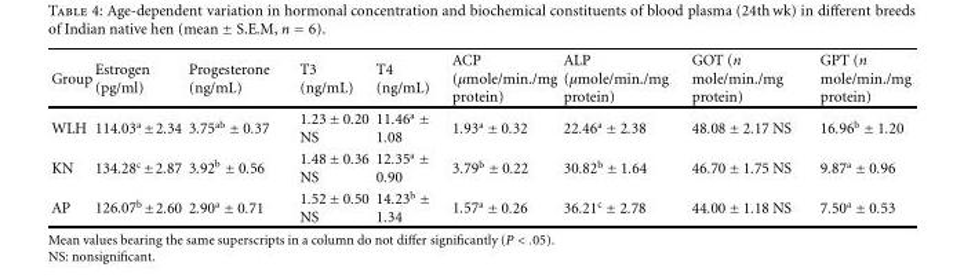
<table><thead><tr><td>Group</td><td>Estrogen (pg/ml)</td><td>Progesterone (ng/mL)</td><td>T3 (ng/mL)</td><td>T4 (ng/mL)</td><td>ACP (µmole/min./mg protein)</td><td>ALP (µmole/min./mg protein)</td><td>GOT (n mole/min./mg protein)</td><td>GPT (n mole/min./mg protein)</td></tr></thead><tbody><tr><td>WLH</td><td>114.03<sup>a</sup> ±2.34</td><td>3.75<sup>ab</sup> ± 0.37</td><td>1.23 ± 0.20 NS</td><td>11.46<sup>a</sup> ± 1.08</td><td>1.93<sup>a</sup> ± 0.32</td><td>22.46<sup>a</sup> ± 2.38</td><td>48.08 ± 2.17 NS</td><td>16.96<sup>b</sup> ± 1.20</td></tr><tr><td>KN</td><td>134.28<sup>c</sup> ±2.87</td><td>3.92<sup>b</sup> ± 0.56</td><td>1.48 ± 0.36 NS</td><td>12.35<sup>a</sup> ± 0.90</td><td>3.79<sup>b</sup> ± 0.22</td><td>30.82<sup>b</sup> ± 1.64</td><td>46.70 ± 1.75 NS</td><td>9.87<sup>a</sup> ± 0.96</td></tr><tr><td>AP</td><td>126.07<sup>b</sup>±2.60</td><td>2.90<sup>a</sup> ± 0.71</td><td>1.52 ± 0.50 NS</td><td>14.23<sup>b</sup> ± 1.34</td><td>1.57<sup>a</sup> ± 0.26</td><td>36.21<sup>c</sup> ± 2.78</td><td>44.00 ± 1.18 NS</td><td>7.50<sup>a</sup> ± 0.53</td></tr></tbody></table>